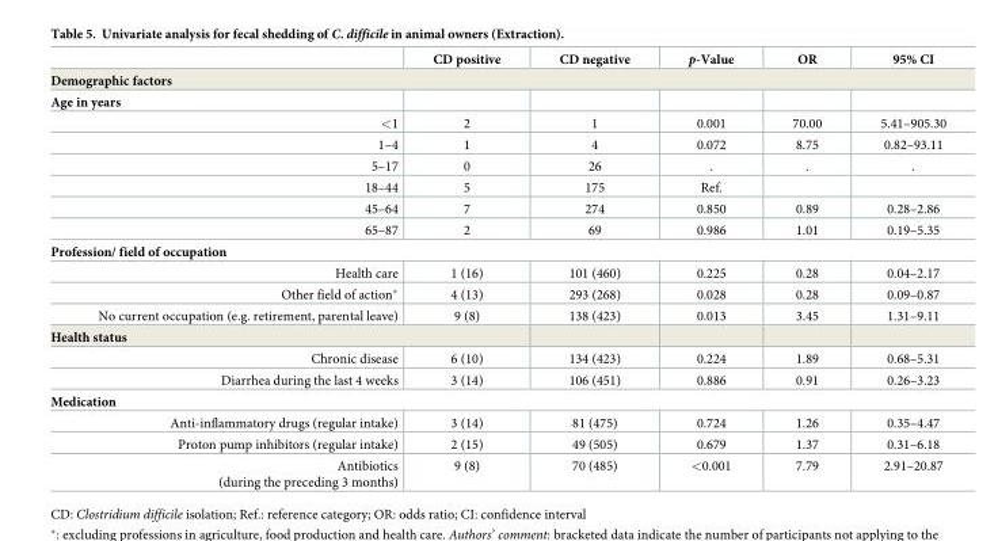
<table><thead><tr><td></td><td>CD positive</td><td>CD negative</td><td>p-Value</td><td>OR</td><td>95% CI</td></tr></thead><tbody><tr><td colspan="6">Demographic factors</td></tr><tr><td colspan="6">Age in years</td></tr><tr><td>&lt;1</td><td>2</td><td>1</td><td>0.001</td><td>70.00</td><td>5.41–905.30</td></tr><tr><td>1–4</td><td>1</td><td>4</td><td>0.072</td><td>8.75</td><td>0.82–93.11</td></tr><tr><td>5–17</td><td>0</td><td>26</td><td>.</td><td>.</td><td>.</td></tr><tr><td>18–44</td><td>5</td><td>175</td><td>Ref.</td><td></td><td></td></tr><tr><td>45–64</td><td>7</td><td>274</td><td>0.850</td><td>0.89</td><td>0.28–2.86</td></tr><tr><td>65–87</td><td>2</td><td>69</td><td>0.986</td><td>1.01</td><td>0.19–5.35</td></tr><tr><td colspan="6">Profession/ field of occupation</td></tr><tr><td>Health care</td><td>1 (16)</td><td>101 (460)</td><td>0.225</td><td>0.28</td><td>0.04–2.17</td></tr><tr><td>Other field of action*</td><td>4 (13)</td><td>293 (268)</td><td>0.028</td><td>0.28</td><td>0.09–0.87</td></tr><tr><td>No current occupation (e.g. retirement, parental leave)</td><td>9 (8)</td><td>138 (423)</td><td>0.013</td><td>3.45</td><td>1.31–9.11</td></tr><tr><td colspan="6">Health status</td></tr><tr><td>Chronic disease</td><td>6 (10)</td><td>134 (423)</td><td>0.224</td><td>1.89</td><td>0.68–5.31</td></tr><tr><td>Diarrhea during the last 4 weeks</td><td>3 (14)</td><td>106 (451)</td><td>0.886</td><td>0.91</td><td>0.26–3.23</td></tr><tr><td colspan="6">Medication</td></tr><tr><td>Anti-inflammatory drugs (regular intake)</td><td>3 (14)</td><td>81 (475)</td><td>0.724</td><td>1.26</td><td>0.35–4.47</td></tr><tr><td>Proton pump inhibitors (regular intake)</td><td>2 (15)</td><td>49 (505)</td><td>0.679</td><td>1.37</td><td>0.31–6.18</td></tr><tr><td>Antibiotics (during the preceding 3 months)</td><td>9 (8)</td><td>70 (485)</td><td>&lt;0.001</td><td>7.79</td><td>2.91–20.87</td></tr></tbody></table>